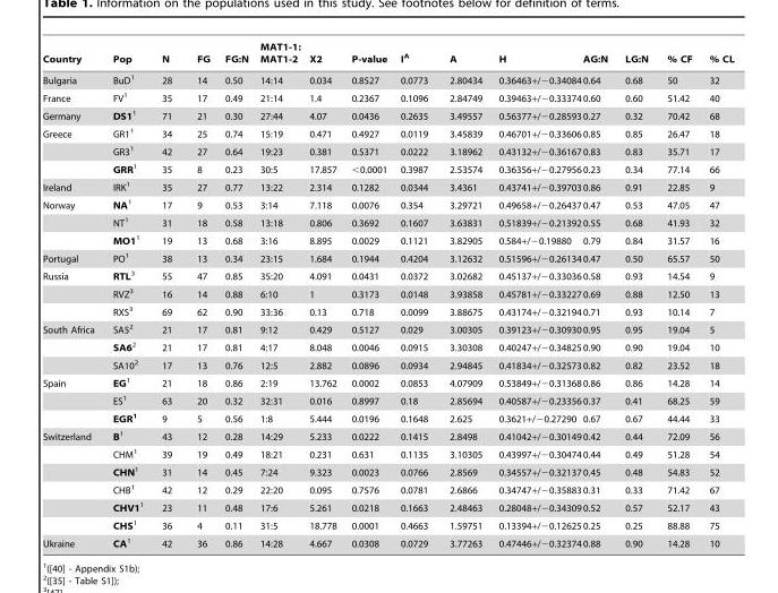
<table><thead><tr><td>Country</td><td>Pop</td><td>N</td><td>FG</td><td>FG:N</td><td>MAT1-1: MAT1-2</td><td>X2</td><td>P-value</td><td>I<sup>A</sup></td><td>A</td><td>H</td><td>AG:N</td><td>LG:N</td><td>% CF</td><td>% CL</td></tr></thead><tbody><tr><td>Bulgaria</td><td>BuD<sup>1</sup></td><td>28</td><td>14</td><td>0.50</td><td>14:14</td><td>0.034</td><td>0.8527</td><td>0.0773</td><td>2.80434</td><td>0.36463+/−0.34084</td><td>0.64</td><td>0.68</td><td>50</td><td>32</td></tr><tr><td>France</td><td>FV<sup>1</sup></td><td>35</td><td>17</td><td>0.49</td><td>21:14</td><td>1.4</td><td>0.2367</td><td>0.1096</td><td>2.84749</td><td>0.39463+/−0.33374</td><td>0.60</td><td>0.60</td><td>51.42</td><td>40</td></tr><tr><td>Germany</td><td>DS11</td><td>71</td><td>21</td><td>0.30</td><td>27:44</td><td>4.07</td><td>0.0436</td><td>0.2635</td><td>3.49557</td><td>0.56377+/−0.28593</td><td>0.27</td><td>0.32</td><td>70.42</td><td>68</td></tr><tr><td rowspan="3">Greece</td><td>GR1<sup>1</sup></td><td>34</td><td>25</td><td>0.74</td><td>15:19</td><td>0.471</td><td>0.4927</td><td>0.0119</td><td>3.45839</td><td>0.46701+/−0.33606</td><td>0.85</td><td>0.85</td><td>26.47</td><td>18</td></tr><tr><td>GR3<sup>1</sup></td><td>42</td><td>27</td><td>0.64</td><td>19:23</td><td>0.381</td><td>0.5371</td><td>0.0222</td><td>3.18962</td><td>0.43132+/−0.36167</td><td>0.83</td><td>0.83</td><td>35.71</td><td>17</td></tr><tr><td>GRR1</td><td>35</td><td>8</td><td>0.23</td><td>30:5</td><td>17.857</td><td>&lt;0.0001</td><td>0.3987</td><td>2.53574</td><td>0.36356+/−0.27956</td><td>0.23</td><td>0.34</td><td>77.14</td><td>66</td></tr><tr><td>Ireland</td><td>IRK<sup>1</sup></td><td>35</td><td>27</td><td>0.77</td><td>13:22</td><td>2.314</td><td>0.1282</td><td>0.0344</td><td>3.4361</td><td>0.43741+/−0.39703</td><td>0.86</td><td>0.91</td><td>22.85</td><td>9</td></tr><tr><td rowspan="3">Norway</td><td>NA1</td><td>17</td><td>9</td><td>0.53</td><td>3:14</td><td>7.118</td><td>0.0076</td><td>0.354</td><td>3.29721</td><td>0.49658+/−0.26437</td><td>0.47</td><td>0.53</td><td>47.05</td><td>47</td></tr><tr><td>NT<sup>1</sup></td><td>31</td><td>18</td><td>0.58</td><td>13:18</td><td>0.806</td><td>0.3692</td><td>0.1607</td><td>3.63831</td><td>0.51839+/−0.21392</td><td>0.55</td><td>0.68</td><td>41.93</td><td>32</td></tr><tr><td>MO11</td><td>19</td><td>13</td><td>0.68</td><td>3:16</td><td>8.895</td><td>0.0029</td><td>0.1121</td><td>3.82905</td><td>0.584+/−0.19880</td><td>0.79</td><td>0.84</td><td>31.57</td><td>16</td></tr><tr><td>Portugal</td><td>PO<sup>1</sup></td><td>38</td><td>13</td><td>0.34</td><td>23:15</td><td>1.684</td><td>0.1944</td><td>0.4204</td><td>3.12632</td><td>0.51596+/−0.26134</td><td>0.47</td><td>0.50</td><td>65.57</td><td>50</td></tr><tr><td rowspan="3">Russia</td><td>RTL3</td><td>55</td><td>47</td><td>0.85</td><td>35:20</td><td>4.091</td><td>0.0431</td><td>0.0372</td><td>3.02682</td><td>0.45137+/−0.33036</td><td>0.58</td><td>0.93</td><td>14.54</td><td>9</td></tr><tr><td>RVZ<sup>3</sup></td><td>16</td><td>14</td><td>0.88</td><td>6:10</td><td>1</td><td>0.3173</td><td>0.0148</td><td>3.93858</td><td>0.45781+/−0.33227</td><td>0.69</td><td>0.88</td><td>12.50</td><td>13</td></tr><tr><td>RXS<sup>3</sup></td><td>69</td><td>62</td><td>0.90</td><td>33:36</td><td>0.13</td><td>0.718</td><td>0.0099</td><td>3.88675</td><td>0.43174+/−0.32194</td><td>0.71</td><td>0.93</td><td>10.14</td><td>7</td></tr><tr><td rowspan="3">South Africa</td><td>SA5<sup>2</sup></td><td>21</td><td>17</td><td>0.81</td><td>9:12</td><td>0.429</td><td>0.5127</td><td>0.029</td><td>3.00305</td><td>0.39123+/−0.30930</td><td>0.95</td><td>0.95</td><td>19.04</td><td>5</td></tr><tr><td>SA62</td><td>21</td><td>17</td><td>0.81</td><td>4:17</td><td>8.048</td><td>0.0046</td><td>0.0915</td><td>3.30308</td><td>0.40247+/−0.34825</td><td>0.90</td><td>0.90</td><td>19.04</td><td>10</td></tr><tr><td>SA10<sup>2</sup></td><td>17</td><td>13</td><td>0.76</td><td>12:5</td><td>2.882</td><td>0.0896</td><td>0.0934</td><td>2.94845</td><td>0.41834+/−0.32573</td><td>0.82</td><td>0.82</td><td>23.52</td><td>18</td></tr><tr><td rowspan="3">Spain</td><td>EG1</td><td>21</td><td>18</td><td>0.86</td><td>2:19</td><td>13.762</td><td>0.0002</td><td>0.0853</td><td>4.07909</td><td>0.53849+/−0.31368</td><td>0.86</td><td>0.86</td><td>14.28</td><td>14</td></tr><tr><td>ES<sup>1</sup></td><td>63</td><td>20</td><td>0.32</td><td>32:31</td><td>0.016</td><td>0.8997</td><td>0.18</td><td>2.85694</td><td>0.40587+/−0.23356</td><td>0.37</td><td>0.41</td><td>68.25</td><td>59</td></tr><tr><td>EGR1</td><td>9</td><td>5</td><td>0.56</td><td>1:8</td><td>5.444</td><td>0.0196</td><td>0.1648</td><td>2.625</td><td>0.3621+/−0.27290</td><td>0.67</td><td>0.67</td><td>44.44</td><td>33</td></tr><tr><td rowspan="6">Switzerland</td><td>B1</td><td>43</td><td>12</td><td>0.28</td><td>14:29</td><td>5.233</td><td>0.0222</td><td>0.1415</td><td>2.8498</td><td>0.41042+/−0.30149</td><td>0.42</td><td>0.44</td><td>72.09</td><td>56</td></tr><tr><td>CHM<sup>1</sup></td><td>39</td><td>19</td><td>0.49</td><td>18:21</td><td>0.231</td><td>0.631</td><td>0.1135</td><td>3.10305</td><td>0.43997+/−0.30474</td><td>0.44</td><td>0.49</td><td>51.28</td><td>54</td></tr><tr><td>CHN1</td><td>31</td><td>14</td><td>0.45</td><td>7:24</td><td>9.323</td><td>0.0023</td><td>0.0766</td><td>2.8569</td><td>0.34557+/−0.32137</td><td>0.45</td><td>0.48</td><td>54.83</td><td>52</td></tr><tr><td>CHB<sup>1</sup></td><td>42</td><td>12</td><td>0.29</td><td>22:20</td><td>0.095</td><td>0.7576</td><td>0.0781</td><td>2.6866</td><td>0.34747+/−0.35883</td><td>0.31</td><td>0.33</td><td>71.42</td><td>67</td></tr><tr><td>CHV11</td><td>23</td><td>11</td><td>0.48</td><td>17:6</td><td>5.261</td><td>0.0218</td><td>0.1663</td><td>2.48463</td><td>0.28048+/−0.34309</td><td>0.52</td><td>0.57</td><td>52.17</td><td>43</td></tr><tr><td>CHS1</td><td>36</td><td>4</td><td>0.11</td><td>31:5</td><td>18.778</td><td>0.0001</td><td>0.4663</td><td>1.59751</td><td>0.13394+/−0.12625</td><td>0.25</td><td>0.25</td><td>88.88</td><td>75</td></tr><tr><td>Ukraine</td><td>CA1</td><td>42</td><td>36</td><td>0.86</td><td>14:28</td><td>4.667</td><td>0.0308</td><td>0.0729</td><td>3.77263</td><td>0.47446+/−0.32374</td><td>0.88</td><td>0.90</td><td>14.28</td><td>10</td></tr></tbody></table>